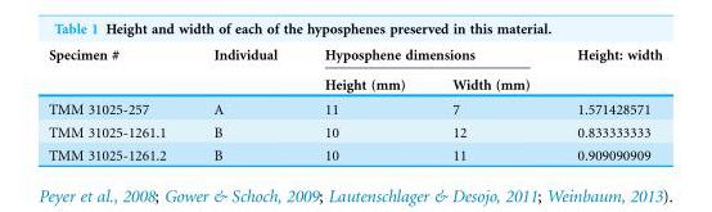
<table><thead><tr><td rowspan="2">Specimen #</td><td rowspan="2">Individual</td><td colspan="2">Hyposphene dimensions</td><td rowspan="2">Height: width</td></tr><tr><td>Height (mm)</td><td>Width (mm)</td></tr></thead><tbody><tr><td>TMM 31025-257</td><td>A</td><td>11</td><td>7</td><td>1.571428571</td></tr><tr><td>TMM 31025-1261.1</td><td>B</td><td>10</td><td>12</td><td>0.833333333</td></tr><tr><td>TMM 31025-1261.2</td><td>B</td><td>10</td><td>11</td><td>0.909090909</td></tr></tbody></table>